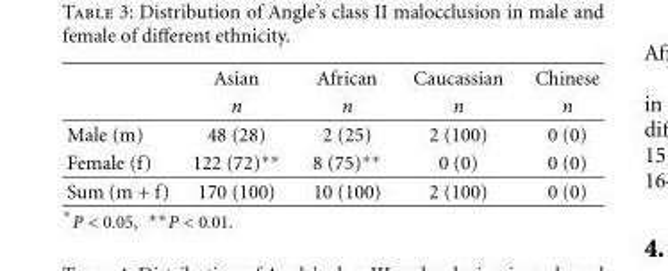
<table><thead><tr><td rowspan="2"></td><td rowspan="2">Asian n</td><td rowspan="2">African n</td><td rowspan="2">Caucassian n</td><td rowspan="2">Chinese n</td></tr><tr></tr></thead><tbody><tr><td>Male (m)</td><td>48 (28)</td><td>2 (25)</td><td>2 (100)</td><td>0 (0)</td></tr><tr><td>Female (f)</td><td>122 (72)∗∗</td><td>8 (75)∗∗</td><td>0 (0)</td><td>0 (0)</td></tr><tr><td>Sum (m + f)</td><td>170 (100)</td><td>10 (100)</td><td>2 (100)</td><td>0 (0)</td></tr></tbody></table>